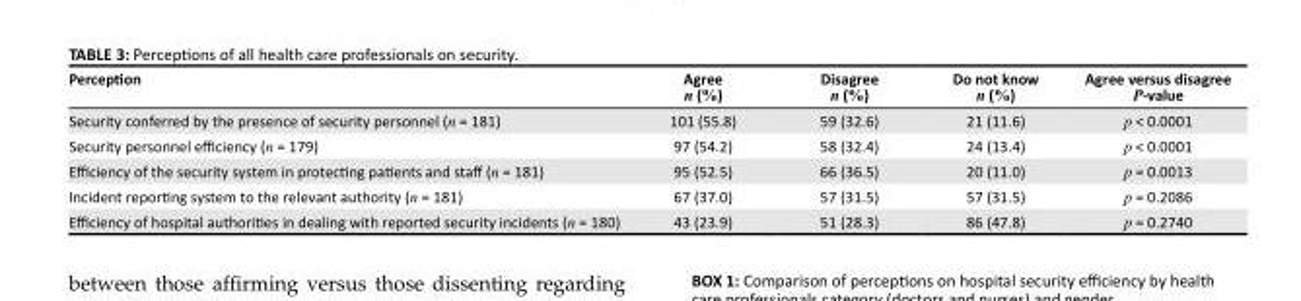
<table><thead><tr><td>Perception</td><td>Agree n (%)</td><td>Disagree n (%)</td><td>Do not know n (%)</td><td>Agree versus disagree P-value</td></tr></thead><tbody><tr><td>Security conferred by the presence of security personnel (n = 181)</td><td>101 (55.8)</td><td>59 (32.6)</td><td>21 (11.6)</td><td>p &lt; 0.0001</td></tr><tr><td>Security personnel efficiency (n = 179)</td><td>97 (54.2)</td><td>58 (32.4)</td><td>24 (13.4)</td><td>p &lt; 0.0001</td></tr><tr><td>Efficiency of the security system in protecting patients and staff (n = 181)</td><td>95 (52.5)</td><td>66 (36.5)</td><td>20 (11.0)</td><td>p = 0.0013</td></tr><tr><td>Incident reporting system to the relevant authority (n = 181)</td><td>67 (37.0)</td><td>57 (31.5)</td><td>57 (31.5)</td><td>p = 0.2086</td></tr><tr><td>Efficiency of hospital authorities in dealing with reported security incidents (n = 180)</td><td>43 (23.9)</td><td>51 (28.3)</td><td>86 (47.8)</td><td>p = 0.2740</td></tr></tbody></table>